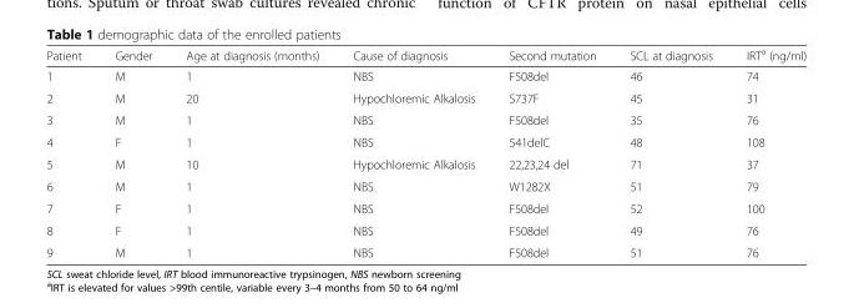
<table><thead><tr><td>Patient</td><td>Gender</td><td>Age at diagnosis (months)</td><td>Cause of diagnosis</td><td>Second mutation</td><td>SCL at diagnosis</td><td>IRT<sup>a</sup> (ng/ml)</td></tr></thead><tbody><tr><td>1</td><td>M</td><td>1</td><td>NBS</td><td>F508del</td><td>46</td><td>74</td></tr><tr><td>2</td><td>M</td><td>20</td><td>Hypochloremic Alkalosis</td><td>S737F</td><td>45</td><td>31</td></tr><tr><td>3</td><td>M</td><td>1</td><td>NBS</td><td>F508del</td><td>35</td><td>76</td></tr><tr><td>4</td><td>F</td><td>1</td><td>NBS</td><td>541delC</td><td>48</td><td>108</td></tr><tr><td>5</td><td>M</td><td>10</td><td>Hypochloremic Alkalosis</td><td>22,23,24 del</td><td>71</td><td>37</td></tr><tr><td>6</td><td>M</td><td>1</td><td>NBS</td><td>W1282X</td><td>51</td><td>79</td></tr><tr><td>7</td><td>F</td><td>1</td><td>NBS</td><td>F508del</td><td>52</td><td>100</td></tr><tr><td>8</td><td>F</td><td>1</td><td>NBS</td><td>F508del</td><td>49</td><td>76</td></tr><tr><td>9</td><td>M</td><td>1</td><td>NBS</td><td>F508del</td><td>51</td><td>76</td></tr></tbody></table>